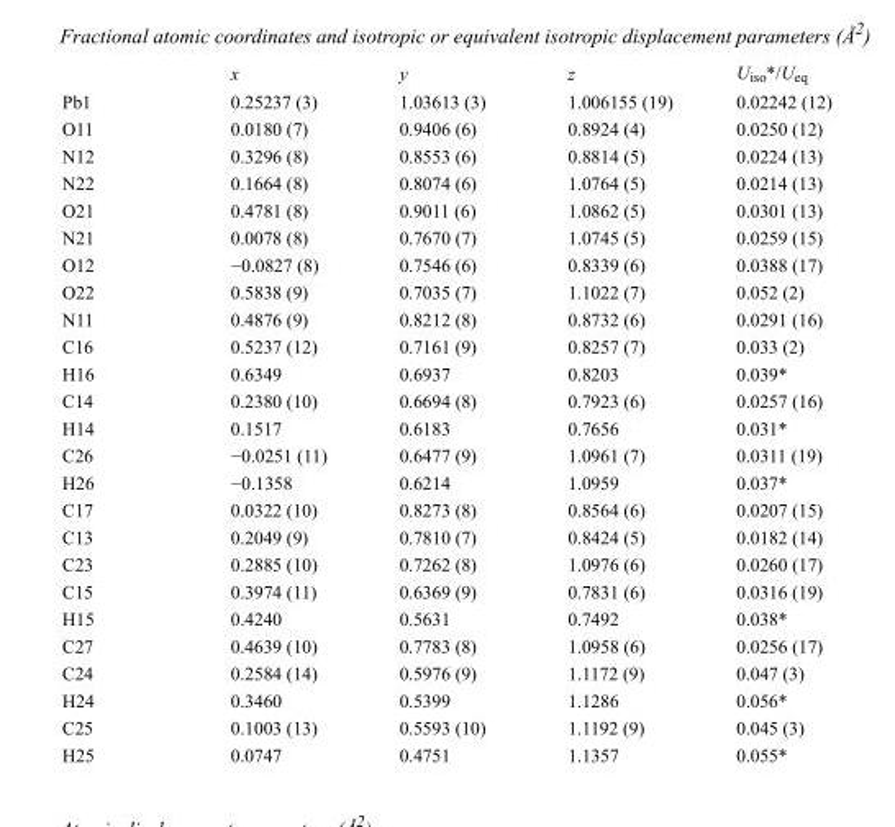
<table><thead><tr><td></td><td>x</td><td>y</td><td>z</td><td>U<sub>iso</sub>*/U<sub>eq</sub></td></tr></thead><tbody><tr><td>Pb1</td><td>0.25237 (3)</td><td>1.03613 (3)</td><td>1.006155 (19)</td><td>0.02242 (12)</td></tr><tr><td>O11</td><td>0.0180 (7)</td><td>0.9406 (6)</td><td>0.8924 (4)</td><td>0.0250 (12)</td></tr><tr><td>N12</td><td>0.3296 (8)</td><td>0.8553 (6)</td><td>0.8814 (5)</td><td>0.0224 (13)</td></tr><tr><td>N22</td><td>0.1664 (8)</td><td>0.8074 (6)</td><td>1.0764 (5)</td><td>0.0214 (13)</td></tr><tr><td>O21</td><td>0.4781 (8)</td><td>0.9011 (6)</td><td>1.0862 (5)</td><td>0.0301 (13)</td></tr><tr><td>N21</td><td>0.0078 (8)</td><td>0.7670 (7)</td><td>1.0745 (5)</td><td>0.0259 (15)</td></tr><tr><td>O12</td><td>−0.0827 (8)</td><td>0.7546 (6)</td><td>0.8339 (6)</td><td>0.0388 (17)</td></tr><tr><td>O22</td><td>0.5838 (9)</td><td>0.7035 (7)</td><td>1.1022 (7)</td><td>0.052 (2)</td></tr><tr><td>N11</td><td>0.4876 (9)</td><td>0.8212 (8)</td><td>0.8732 (6)</td><td>0.0291 (16)</td></tr><tr><td>C16</td><td>0.5237 (12)</td><td>0.7161 (9)</td><td>0.8257 (7)</td><td>0.033 (2)</td></tr><tr><td>H16</td><td>0.6349</td><td>0.6937</td><td>0.8203</td><td>0.039*</td></tr><tr><td>C14</td><td>0.2380 (10)</td><td>0.6694 (8)</td><td>0.7923 (6)</td><td>0.0257 (16)</td></tr><tr><td>H14</td><td>0.1517</td><td>0.6183</td><td>0.7656</td><td>0.031*</td></tr><tr><td>C26</td><td>−0.0251 (11)</td><td>0.6477 (9)</td><td>1.0961 (7)</td><td>0.0311 (19)</td></tr><tr><td>H26</td><td>−0.1358</td><td>0.6214</td><td>1.0959</td><td>0.037*</td></tr><tr><td>C17</td><td>0.0322 (10)</td><td>0.8273 (8)</td><td>0.8564 (6)</td><td>0.0207 (15)</td></tr><tr><td>C13</td><td>0.2049 (9)</td><td>0.7810 (7)</td><td>0.8424 (5)</td><td>0.0182 (14)</td></tr><tr><td>C23</td><td>0.2885 (10)</td><td>0.7262 (8)</td><td>1.0976 (6)</td><td>0.0260 (17)</td></tr><tr><td>C15</td><td>0.3974 (11)</td><td>0.6369 (9)</td><td>0.7831 (6)</td><td>0.0316 (19)</td></tr><tr><td>H15</td><td>0.4240</td><td>0.5631</td><td>0.7492</td><td>0.038*</td></tr><tr><td>C27</td><td>0.4639 (10)</td><td>0.7783 (8)</td><td>1.0958 (6)</td><td>0.0256 (17)</td></tr><tr><td>C24</td><td>0.2584 (14)</td><td>0.5976 (9)</td><td>1.1172 (9)</td><td>0.047 (3)</td></tr><tr><td>H24</td><td>0.3460</td><td>0.5399</td><td>1.1286</td><td>0.056*</td></tr><tr><td>C25</td><td>0.1003 (13)</td><td>0.5593 (10)</td><td>1.1192 (9)</td><td>0.045 (3)</td></tr><tr><td>H25</td><td>0.0747</td><td>0.4751</td><td>1.1357</td><td>0.055*</td></tr></tbody></table>